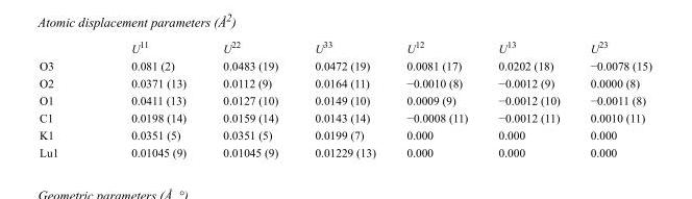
<table><thead><tr><td></td><td>U<sup>11</sup></td><td>U<sup>22</sup></td><td>U<sup>33</sup></td><td>U<sup>12</sup></td><td>U<sup>13</sup></td><td>U<sup>23</sup></td></tr></thead><tbody><tr><td>O3</td><td>0.081 (2)</td><td>0.0483 (19)</td><td>0.0472 (19)</td><td>0.0081 (17)</td><td>0.0202 (18)</td><td>−0.0078 (15)</td></tr><tr><td>O2</td><td>0.0371 (13)</td><td>0.0112 (9)</td><td>0.0164 (11)</td><td>−0.0010 (8)</td><td>−0.0012 (9)</td><td>0.0000 (8)</td></tr><tr><td>O1</td><td>0.0411 (13)</td><td>0.0127 (10)</td><td>0.0149 (10)</td><td>0.0009 (9)</td><td>−0.0012 (10)</td><td>−0.0011 (8)</td></tr><tr><td>C1</td><td>0.0198 (14)</td><td>0.0159 (14)</td><td>0.0143 (14)</td><td>−0.0008 (11)</td><td>−0.0012 (11)</td><td>0.0010 (11)</td></tr><tr><td>K1</td><td>0.0351 (5)</td><td>0.0351 (5)</td><td>0.0199 (7)</td><td>0.000</td><td>0.000</td><td>0.000</td></tr><tr><td>Lu1</td><td>0.01045 (9)</td><td>0.01045 (9)</td><td>0.01229 (13)</td><td>0.000</td><td>0.000</td><td>0.000</td></tr></tbody></table>